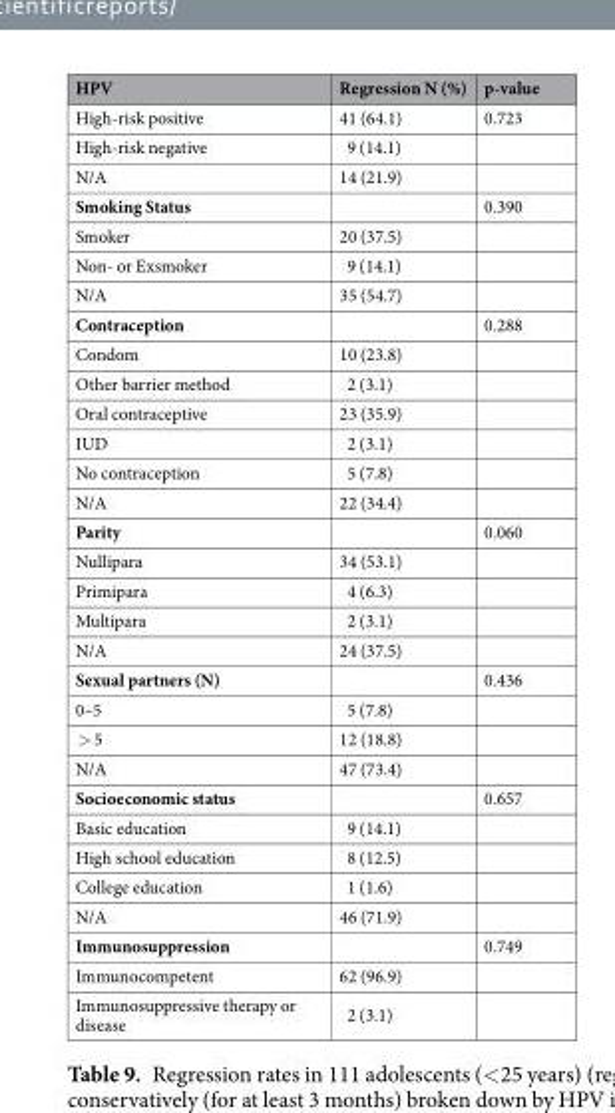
<table><thead><tr><td>HPV</td><td>Regression N (%)</td><td>p-value</td></tr></thead><tbody><tr><td>High-risk positive</td><td>41 (64.1)</td><td>0.723</td></tr><tr><td>High-risk negative</td><td>9 (14.1)</td><td></td></tr><tr><td>N/A</td><td>14 (21.9)</td><td></td></tr><tr><td>Smoking Status</td><td></td><td>0.390</td></tr><tr><td>Smoker</td><td>20 (37.5)</td><td></td></tr><tr><td>Non- or Exsmoker</td><td>9 (14.1)</td><td></td></tr><tr><td>N/A</td><td>35 (54.7)</td><td></td></tr><tr><td>Contraception</td><td></td><td>0.288</td></tr><tr><td>Condom</td><td>10 (23.8)</td><td></td></tr><tr><td>Other barrier method</td><td>2 (3.1)</td><td></td></tr><tr><td>Oral contraceptive</td><td>23 (35.9)</td><td></td></tr><tr><td>IUD</td><td>2 (3.1)</td><td></td></tr><tr><td>No contraception</td><td>5 (7.8)</td><td></td></tr><tr><td>N/A</td><td>22 (34.4)</td><td></td></tr><tr><td>Parity</td><td></td><td>0.060</td></tr><tr><td>Nullipara</td><td>34 (53.1)</td><td></td></tr><tr><td>Primipara</td><td>4 (6.3)</td><td></td></tr><tr><td>Multipara</td><td>2 (3.1)</td><td></td></tr><tr><td>N/A</td><td>24 (37.5)</td><td></td></tr><tr><td>Sexual partners (N)</td><td></td><td>0.436</td></tr><tr><td>0–5</td><td>5 (7.8)</td><td></td></tr><tr><td>&gt; 5</td><td>12 (18.8)</td><td></td></tr><tr><td>N/A</td><td>47 (73.4)</td><td></td></tr><tr><td>Socioeconomic status</td><td></td><td>0.657</td></tr><tr><td>Basic education</td><td>9 (14.1)</td><td></td></tr><tr><td>High school education</td><td>8 (12.5)</td><td></td></tr><tr><td>College education</td><td>1 (1.6)</td><td></td></tr><tr><td>N/A</td><td>46 (71.9)</td><td></td></tr><tr><td>Immunosuppression</td><td></td><td>0.749</td></tr><tr><td>Immunocompetent</td><td>62 (96.9)</td><td></td></tr><tr><td>Immunosuppressive therapy or disease</td><td>2 (3.1)</td><td></td></tr></tbody></table>